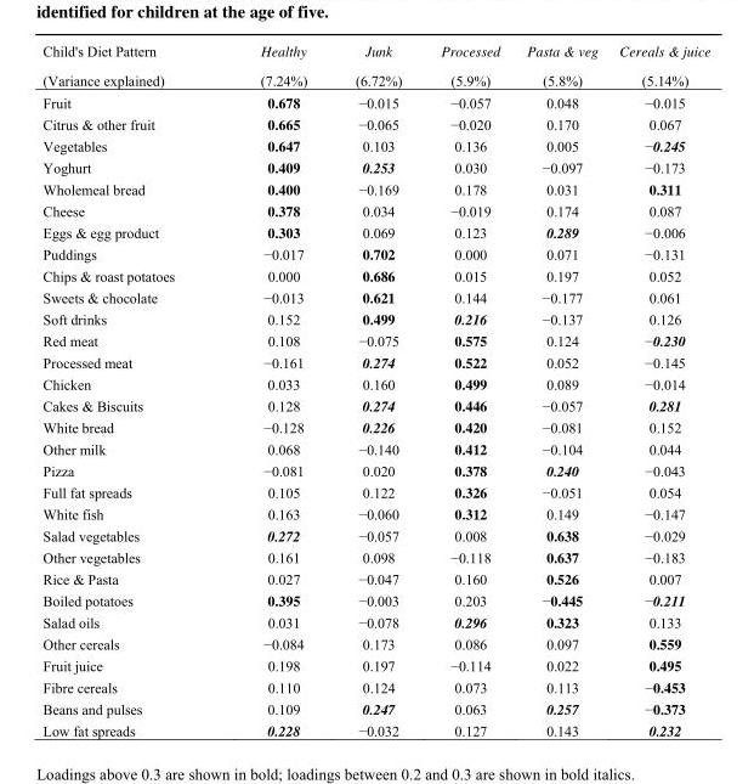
<table><thead><tr><td rowspan="2">Child&#x27;s Diet Pattern (Variance explained)</td><td rowspan="2">Healthy (7.24%)</td><td rowspan="2">Junk (6.72%)</td><td rowspan="2">Processed (5.9%)</td><td rowspan="2">Pasta &amp; veg (5.8%)</td><td rowspan="2">Cereals &amp; juice (5.14%)</td></tr><tr></tr></thead><tbody><tr><td>Fruit</td><td>0.678</td><td>−0.015</td><td>−0.057</td><td>0.048</td><td>−0.015</td></tr><tr><td>Citrus &amp; other fruit</td><td>0.665</td><td>−0.065</td><td>−0.020</td><td>0.170</td><td>0.067</td></tr><tr><td>Vegetables</td><td>0.647</td><td>0.103</td><td>0.136</td><td>0.005</td><td>−0.245</td></tr><tr><td>Yoghurt</td><td>0.409</td><td>0.253</td><td>0.030</td><td>−0.097</td><td>−0.173</td></tr><tr><td>Wholemeal bread</td><td>0.400</td><td>−0.169</td><td>0.178</td><td>0.031</td><td>0.311</td></tr><tr><td>Cheese</td><td>0.378</td><td>0.034</td><td>−0.019</td><td>0.174</td><td>0.087</td></tr><tr><td>Eggs &amp; egg product</td><td>0.303</td><td>0.069</td><td>0.123</td><td>0.289</td><td>−0.006</td></tr><tr><td>Puddings</td><td>−0.017</td><td>0.702</td><td>0.000</td><td>0.071</td><td>−0.131</td></tr><tr><td>Chips &amp; roast potatoes</td><td>0.000</td><td>0.686</td><td>0.015</td><td>0.197</td><td>0.052</td></tr><tr><td>Sweets &amp; chocolate</td><td>−0.013</td><td>0.621</td><td>0.144</td><td>−0.177</td><td>0.061</td></tr><tr><td>Soft drinks</td><td>0.152</td><td>0.499</td><td>0.216</td><td>−0.137</td><td>0.126</td></tr><tr><td>Red meat</td><td>0.108</td><td>−0.075</td><td>0.575</td><td>0.124</td><td>−0.230</td></tr><tr><td>Processed meat</td><td>−0.161</td><td>0.274</td><td>0.522</td><td>0.052</td><td>−0.145</td></tr><tr><td>Chicken</td><td>0.033</td><td>0.160</td><td>0.499</td><td>0.089</td><td>−0.014</td></tr><tr><td>Cakes &amp; Biscuits</td><td>0.128</td><td>0.274</td><td>0.446</td><td>−0.057</td><td>0.281</td></tr><tr><td>White bread</td><td>−0.128</td><td>0.226</td><td>0.420</td><td>−0.081</td><td>0.152</td></tr><tr><td>Other milk</td><td>0.068</td><td>−0.140</td><td>0.412</td><td>−0.104</td><td>0.044</td></tr><tr><td>Pizza</td><td>−0.081</td><td>0.020</td><td>0.378</td><td>0.240</td><td>−0.043</td></tr><tr><td>Full fat spreads</td><td>0.105</td><td>0.122</td><td>0.326</td><td>−0.051</td><td>0.054</td></tr><tr><td>White fish</td><td>0.163</td><td>−0.060</td><td>0.312</td><td>0.149</td><td>−0.147</td></tr><tr><td>Salad vegetables</td><td>0.272</td><td>−0.057</td><td>0.008</td><td>0.638</td><td>−0.029</td></tr><tr><td>Other vegetables</td><td>0.161</td><td>0.098</td><td>−0.118</td><td>0.637</td><td>−0.183</td></tr><tr><td>Rice &amp; Pasta</td><td>0.027</td><td>−0.047</td><td>0.160</td><td>0.526</td><td>0.007</td></tr><tr><td>Boiled potatoes</td><td>0.395</td><td>−0.003</td><td>0.203</td><td>−0.445</td><td>−0.211</td></tr><tr><td>Salad oils</td><td>0.031</td><td>−0.078</td><td>0.296</td><td>0.323</td><td>0.133</td></tr><tr><td>Other cereals</td><td>−0.084</td><td>0.173</td><td>0.086</td><td>0.097</td><td>0.559</td></tr><tr><td>Fruit juice</td><td>0.198</td><td>0.197</td><td>−0.114</td><td>0.022</td><td>0.495</td></tr><tr><td>Fibre cereals</td><td>0.110</td><td>0.124</td><td>0.073</td><td>0.113</td><td>−0.453</td></tr><tr><td>Beans and pulses</td><td>0.109</td><td>0.247</td><td>0.063</td><td>0.257</td><td>−0.373</td></tr><tr><td>Low fat spreads</td><td>0.228</td><td>−0.032</td><td>0.127</td><td>0.143</td><td>0.232</td></tr></tbody></table>